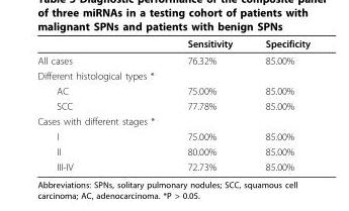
<table><thead><tr><td></td><td>Sensitivity</td><td>Specificity</td></tr></thead><tbody><tr><td>All cases</td><td>76.32%</td><td>85.00%</td></tr><tr><td colspan="3">Different histological types *</td></tr><tr><td>AC</td><td>75.00%</td><td>85.00%</td></tr><tr><td>SCC</td><td>77.78%</td><td>85.00%</td></tr><tr><td colspan="3">Cases with different stages *</td></tr><tr><td>I</td><td>75.00%</td><td>85.00%</td></tr><tr><td>II</td><td>80.00%</td><td>85.00%</td></tr><tr><td>III-IV</td><td>72.73%</td><td>85.00%</td></tr></tbody></table>